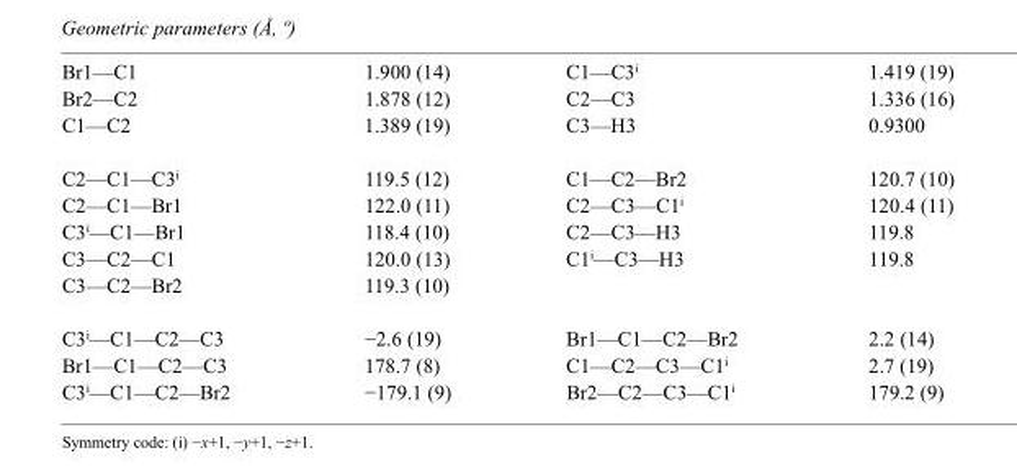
<table><tbody><tr><td>Br1—C1</td><td>1.900 (14)</td><td>C1—C3<sup>i</sup></td><td>1.419 (19)</td></tr><tr><td>Br2—C2</td><td>1.878 (12)</td><td>C2—C3</td><td>1.336 (16)</td></tr><tr><td>C1—C2</td><td>1.389 (19)</td><td>C3—H3</td><td>0.9300</td></tr><tr><td>C2—C1—C3<sup>i</sup></td><td>119.5 (12)</td><td>C1—C2—Br2</td><td>120.7 (10)</td></tr><tr><td>C2—C1—Br1</td><td>122.0 (11)</td><td>C2—C3—C1<sup>i</sup></td><td>120.4 (11)</td></tr><tr><td>C3<sup>i</sup>—C1—Br1</td><td>118.4 (10)</td><td>C2—C3—H3</td><td>119.8</td></tr><tr><td>C3—C2—C1</td><td>120.0 (13)</td><td>C1<sup>i</sup>—C3—H3</td><td>119.8</td></tr><tr><td>C3—C2—Br2</td><td>119.3 (10)</td><td></td><td></td></tr><tr><td>C3<sup>i</sup>—C1—C2—C3</td><td>−2.6 (19)</td><td>Br1—C1—C2—Br2</td><td>2.2 (14)</td></tr><tr><td>Br1—C1—C2—C3</td><td>178.7 (8)</td><td>C1—C2—C3—C1<sup>i</sup></td><td>2.7 (19)</td></tr><tr><td>C3<sup>i</sup>—C1—C2—Br2</td><td>−179.1 (9)</td><td>Br2—C2—C3—C1<sup>i</sup></td><td>179.2 (9)</td></tr></tbody></table>